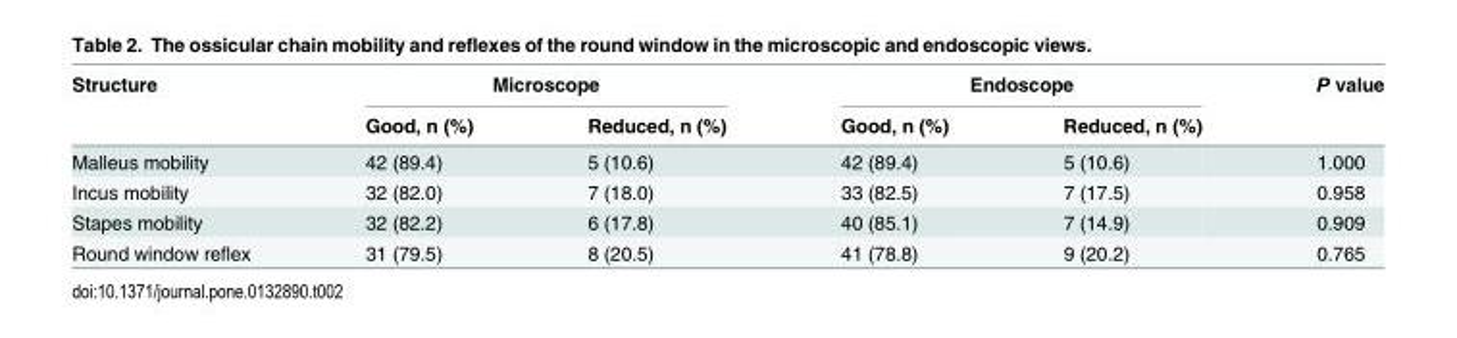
<table><thead><tr><td rowspan="2">Structure</td><td colspan="2">Microscope</td><td colspan="2">Endoscope</td><td rowspan="2">P value</td></tr><tr><td>Good, n (%)</td><td>Reduced, n (%)</td><td>Good, n (%)</td><td>Reduced, n (%)</td></tr></thead><tbody><tr><td>Malleus mobility</td><td>42 (89.4)</td><td>5 (10.6)</td><td>42 (89.4)</td><td>5 (10.6)</td><td>1.000</td></tr><tr><td>Incus mobility</td><td>32 (82.0)</td><td>7 (18.0)</td><td>33 (82.5)</td><td>7 (17.5)</td><td>0.958</td></tr><tr><td>Stapes mobility</td><td>32 (82.2)</td><td>6 (17.8)</td><td>40 (85.1)</td><td>7 (14.9)</td><td>0.909</td></tr><tr><td>Round window reflex</td><td>31 (79.5)</td><td>8 (20.5)</td><td>41 (78.8)</td><td>9 (20.2)</td><td>0.765</td></tr></tbody></table>